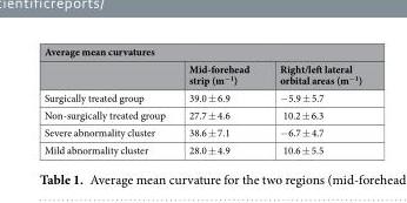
<table><thead><tr><td colspan="3">Average mean curvatures</td></tr><tr><td></td><td>Mid-forehead strip (m<sup>−1</sup>)</td><td>Right/left lateral orbital areas (m<sup>−1</sup>)</td></tr></thead><tbody><tr><td>Surgically treated group</td><td>39.0 ± 6.9</td><td>−5.9 ± 5.7</td></tr><tr><td>Non-surgically treated group</td><td>27.7 ± 4.6</td><td>10.2 ± 6.3</td></tr><tr><td>Severe abnormality cluster</td><td>38.6 ± 7.1</td><td>−6.7 ± 4.7</td></tr><tr><td>Mild abnormality cluster</td><td>28.0 ± 4.9</td><td>10.6 ± 5.5</td></tr></tbody></table>